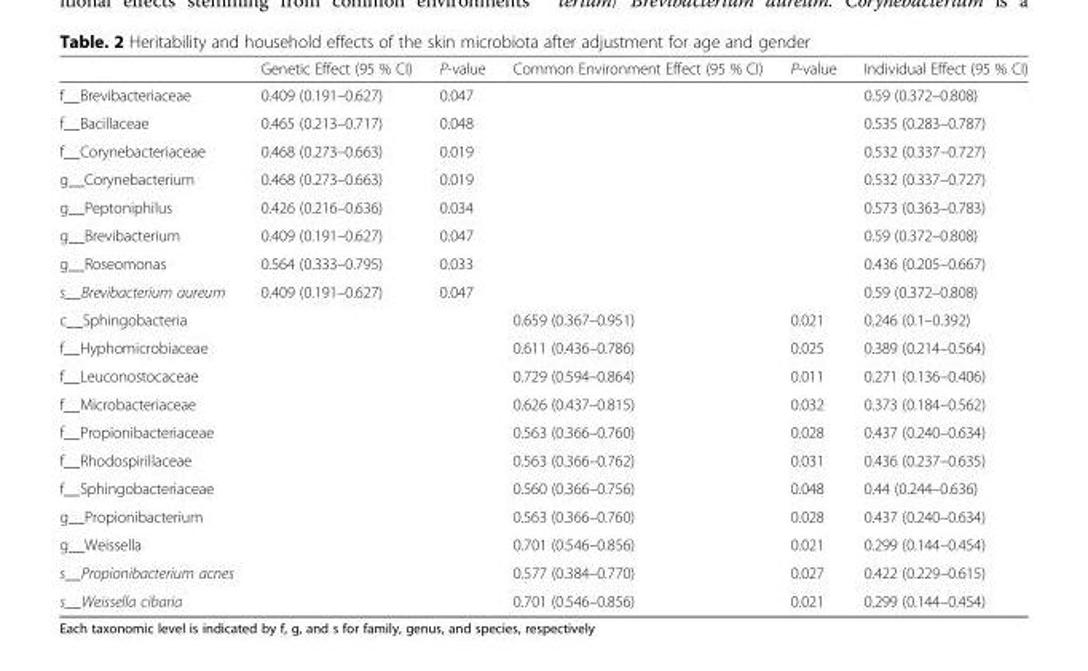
<table><thead><tr><td></td><td>Genetic Effect (95 % CI)</td><td>P-value</td><td>Common Environment Effect (95 % CI)</td><td>P-value</td><td>Individual Effect (95 % CI)</td></tr></thead><tbody><tr><td>f__Brevibacteriaceae</td><td>0.409 (0.191–0.627)</td><td>0.047</td><td></td><td></td><td>0.59 (0.372–0.808)</td></tr><tr><td>f__Bacillaceae</td><td>0.465 (0.213–0.717)</td><td>0.048</td><td></td><td></td><td>0.535 (0.283–0.787)</td></tr><tr><td>f__Corynebacteriaceae</td><td>0.468 (0.273–0.663)</td><td>0.019</td><td></td><td></td><td>0.532 (0.337–0.727)</td></tr><tr><td>g__Corynebacterium</td><td>0.468 (0.273–0.663)</td><td>0.019</td><td></td><td></td><td>0.532 (0.337–0.727)</td></tr><tr><td>g__Peptoniphilus</td><td>0.426 (0.216–0.636)</td><td>0.034</td><td></td><td></td><td>0.573 (0.363–0.783)</td></tr><tr><td>g__Brevibacterium</td><td>0.409 (0.191–0.627)</td><td>0.047</td><td></td><td></td><td>0.59 (0.372–0.808)</td></tr><tr><td>g__Roseomonas</td><td>0.564 (0.333–0.795)</td><td>0.033</td><td></td><td></td><td>0.436 (0.205–0.667)</td></tr><tr><td>s__Brevibacterium aureum</td><td>0.409 (0.191–0.627)</td><td>0.047</td><td></td><td></td><td>0.59 (0.372–0.808)</td></tr><tr><td>c__Sphingobacteria</td><td></td><td></td><td>0.659 (0.367–0.951)</td><td>0.021</td><td>0.246 (0.1–0.392)</td></tr><tr><td>f__Hyphomicrobiaceae</td><td></td><td></td><td>0.611 (0.436–0.786)</td><td>0.025</td><td>0.389 (0.214–0.564)</td></tr><tr><td>f__Leuconostocaceae</td><td></td><td></td><td>0.729 (0.594–0.864)</td><td>0.011</td><td>0.271 (0.136–0.406)</td></tr><tr><td>f__Microbacteriaceae</td><td></td><td></td><td>0.626 (0.437–0.815)</td><td>0.032</td><td>0.373 (0.184–0.562)</td></tr><tr><td>f__Propionibacteriaceae</td><td></td><td></td><td>0.563 (0.366–0.760)</td><td>0.028</td><td>0.437 (0.240–0.634)</td></tr><tr><td>f__Rhodospirillaceae</td><td></td><td></td><td>0.563 (0.366–0.762)</td><td>0.031</td><td>0.436 (0.237–0.635)</td></tr><tr><td>f__Sphingobacteriaceae</td><td></td><td></td><td>0.560 (0.366–0.756)</td><td>0.048</td><td>0.44 (0.244–0.636)</td></tr><tr><td>g__Propionibacterium</td><td></td><td></td><td>0.563 (0.366–0.760)</td><td>0.028</td><td>0.437 (0.240–0.634)</td></tr><tr><td>g__Weissella</td><td></td><td></td><td>0.701 (0.546–0.856)</td><td>0.021</td><td>0.299 (0.144–0.454)</td></tr><tr><td>s__Propionibacterium acnes</td><td></td><td></td><td>0.577 (0.384–0.770)</td><td>0.027</td><td>0.422 (0.229–0.615)</td></tr><tr><td>s__Weissella cibaria</td><td></td><td></td><td>0.701 (0.546–0.856)</td><td>0.021</td><td>0.299 (0.144–0.454)</td></tr></tbody></table>